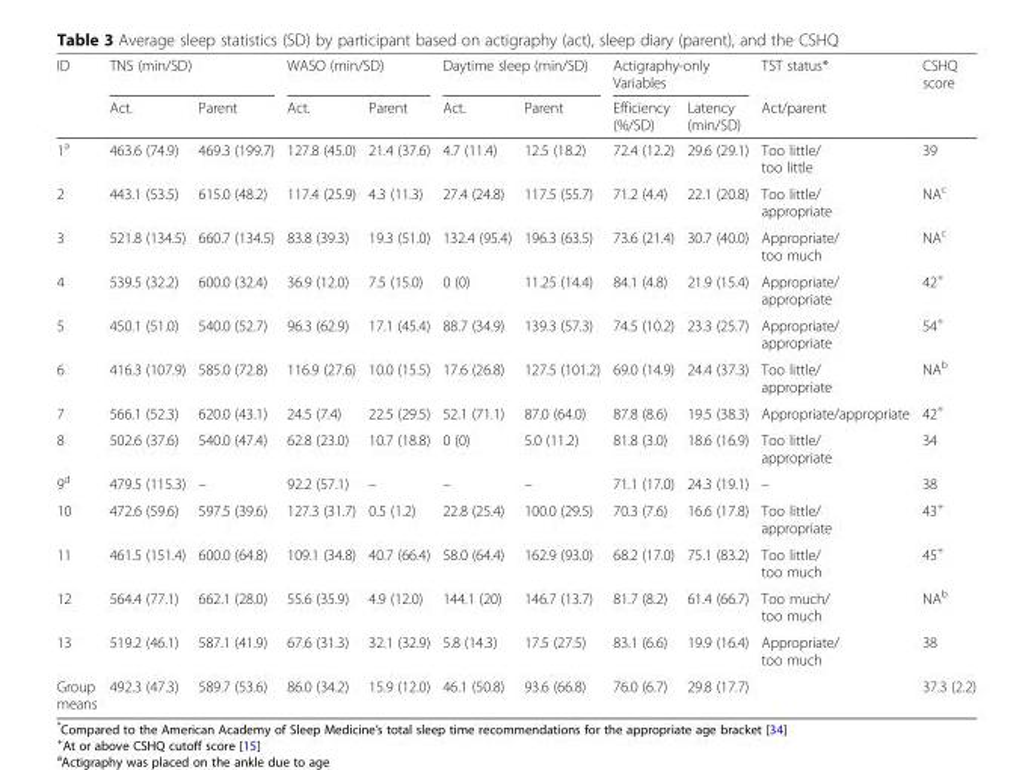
<table><thead><tr><td rowspan="2">ID</td><td colspan="2">TNS (min/SD)</td><td colspan="2">WASO (min/SD)</td><td colspan="2">Daytime sleep (min/SD)</td><td colspan="2">Actigraphy-only Variables</td><td rowspan="2">TST status* Act/parent</td><td rowspan="2">CSHQ score</td></tr><tr><td>Act.</td><td>Parent</td><td>Act.</td><td>Parent</td><td>Act.</td><td>Parent</td><td>Efficiency (%/SD)</td><td>Latency (min/SD)</td></tr></thead><tbody><tr><td>1<sup>a</sup></td><td>463.6 (74.9)</td><td>469.3 (199.7)</td><td>127.8 (45.0)</td><td>21.4 (37.6)</td><td>4.7 (11.4)</td><td>12.5 (18.2)</td><td>72.4 (12.2)</td><td>29.6 (29.1)</td><td>Too little/ too little</td><td>39</td></tr><tr><td>2</td><td>443.1 (53.5)</td><td>615.0 (48.2)</td><td>117.4 (25.9)</td><td>4.3 (11.3)</td><td>27.4 (24.8)</td><td>117.5 (55.7)</td><td>71.2 (4.4)</td><td>22.1 (20.8)</td><td>Too little/ appropriate</td><td>NA<sup>c</sup></td></tr><tr><td>3</td><td>521.8 (134.5)</td><td>660.7 (134.5)</td><td>83.8 (39.3)</td><td>19.3 (51.0)</td><td>132.4 (95.4)</td><td>196.3 (63.5)</td><td>73.6 (21.4)</td><td>30.7 (40.0)</td><td>Appropriate/ too much</td><td>NA<sup>c</sup></td></tr><tr><td>4</td><td>539.5 (32.2)</td><td>600.0 (32.4)</td><td>36.9 (12.0)</td><td>7.5 (15.0)</td><td>0 (0)</td><td>11.25 (14.4)</td><td>84.1 (4.8)</td><td>21.9 (15.4)</td><td>Appropriate/ appropriate</td><td>42<sup>+</sup></td></tr><tr><td>5</td><td>450.1 (51.0)</td><td>540.0 (52.7)</td><td>96.3 (62.9)</td><td>17.1 (45.4)</td><td>88.7 (34.9)</td><td>139.3 (57.3)</td><td>74.5 (10.2)</td><td>23.3 (25.7)</td><td>Appropriate/ appropriate</td><td>54<sup>+</sup></td></tr><tr><td>6</td><td>416.3 (107.9)</td><td>585.0 (72.8)</td><td>116.9 (27.6)</td><td>10.0 (15.5)</td><td>17.6 (26.8)</td><td>127.5 (101.2)</td><td>69.0 (14.9)</td><td>24.4 (37.3)</td><td>Too little/ appropriate</td><td>NA<sup>b</sup></td></tr><tr><td>7</td><td>566.1 (52.3)</td><td>620.0 (43.1)</td><td>24.5 (7.4)</td><td>22.5 (29.5)</td><td>52.1 (71.1)</td><td>87.0 (64.0)</td><td>87.8 (8.6)</td><td>19.5 (38.3)</td><td>Appropriate/appropriate</td><td>42<sup>+</sup></td></tr><tr><td>8</td><td>502.6 (37.6)</td><td>540.0 (47.4)</td><td>62.8 (23.0)</td><td>10.7 (18.8)</td><td>0 (0)</td><td>5.0 (11.2)</td><td>81.8 (3.0)</td><td>18.6 (16.9)</td><td>Too little/ appropriate</td><td>34</td></tr><tr><td>9<sup>d</sup></td><td>479.5 (115.3)</td><td>–</td><td>92.2 (57.1)</td><td>–</td><td>–</td><td>–</td><td>71.1 (17.0)</td><td>24.3 (19.1)</td><td>–</td><td>38</td></tr><tr><td>10</td><td>472.6 (59.6)</td><td>597.5 (39.6)</td><td>127.3 (31.7)</td><td>0.5 (1.2)</td><td>22.8 (25.4)</td><td>100.0 (29.5)</td><td>70.3 (7.6)</td><td>16.6 (17.8)</td><td>Too little/ appropriate</td><td>43<sup>+</sup></td></tr><tr><td>11</td><td>461.5 (151.4)</td><td>600.0 (64.8)</td><td>109.1 (34.8)</td><td>40.7 (66.4)</td><td>58.0 (64.4)</td><td>162.9 (93.0)</td><td>68.2 (17.0)</td><td>75.1 (83.2)</td><td>Too little/ too much</td><td>45<sup>+</sup></td></tr><tr><td>12</td><td>564.4 (77.1)</td><td>662.1 (28.0)</td><td>55.6 (35.9)</td><td>4.9 (12.0)</td><td>144.1 (20)</td><td>146.7 (13.7)</td><td>81.7 (8.2)</td><td>61.4 (66.7)</td><td>Too much/ too much</td><td>NA<sup>b</sup></td></tr><tr><td>13</td><td>519.2 (46.1)</td><td>587.1 (41.9)</td><td>67.6 (31.3)</td><td>32.1 (32.9)</td><td>5.8 (14.3)</td><td>17.5 (27.5)</td><td>83.1 (6.6)</td><td>19.9 (16.4)</td><td>Appropriate/ too much</td><td>38</td></tr><tr><td>Group means</td><td>492.3 (47.3)</td><td>589.7 (53.6)</td><td>86.0 (34.2)</td><td>15.9 (12.0)</td><td>46.1 (50.8)</td><td>93.6 (66.8)</td><td>76.0 (6.7)</td><td>29.8 (17.7)</td><td></td><td>37.3 (2.2)</td></tr></tbody></table>